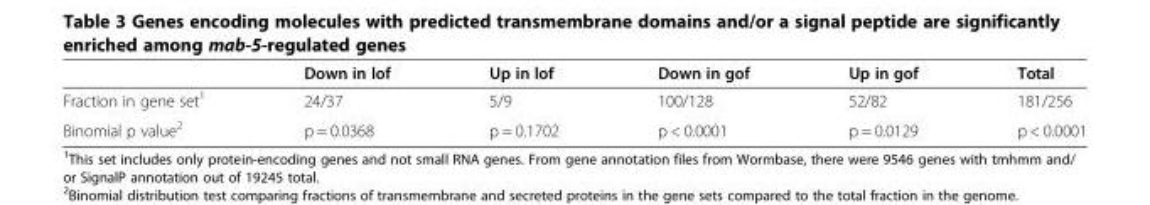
<table><thead><tr><td></td><td>Down in lof</td><td>Up in lof</td><td>Down in gof</td><td>Up in gof</td><td>Total</td></tr></thead><tbody><tr><td>Fraction in gene set<sup>1</sup></td><td>24/37</td><td>5/9</td><td>100/128</td><td>52/82</td><td>181/256</td></tr><tr><td>Binomial p value<sup>2</sup></td><td>p = 0.0368</td><td>p = 0.1702</td><td>p &lt; 0.0001</td><td>p = 0.0129</td><td>p &lt; 0.0001</td></tr></tbody></table>